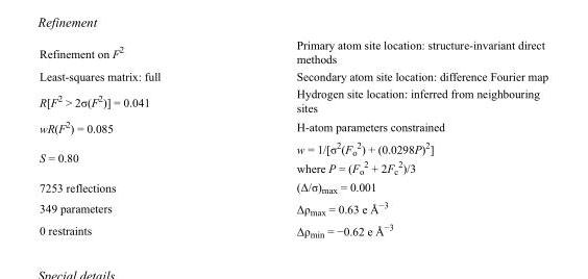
<table><tbody><tr><td>Refinement on F<sup>2</sup></td><td>Primary atom site location: structure-invariant direct methods</td></tr><tr><td>Least-squares matrix: full</td><td>Secondary atom site location: difference Fourier map</td></tr><tr><td>R[F<sup>2</sup> &gt; 2σ(F<sup>2</sup>)] = 0.041</td><td>Hydrogen site location: inferred from neighbouring sites</td></tr><tr><td>wR(F<sup>2</sup>) = 0.085</td><td>H-atom parameters constrained</td></tr><tr><td>S = 0.80</td><td>w = 1/[σ<sup>2</sup>(F<sub>o</sub> <sup>2</sup>) + (0.0298P)<sup>2</sup>] where P = (F<sub>o</sub> <sup>2</sup> + 2F<sub>c</sub> <sup>2</sup>)/3</td></tr><tr><td>7253 reflections</td><td>(Δ/σ)<sub>max</sub> = 0.001</td></tr><tr><td>349 parameters</td><td>Δρ<sub>max</sub> = 0.63 e Å<sup>−3</sup></td></tr><tr><td>0 restraints</td><td>Δρ<sub>min</sub> = −0.62 e Å<sup>−3</sup></td></tr></tbody></table>